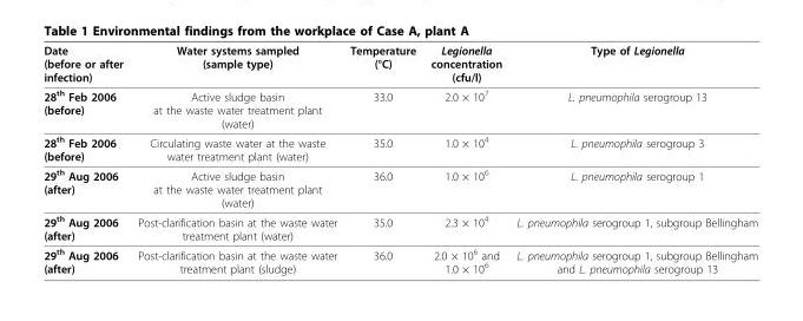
<table><thead><tr><td>Date (before or after infection)</td><td>Water systems sampled (sample type)</td><td>Temperature (°C)</td><td>Legionella concentration (cfu/l)</td><td>Type of Legionella</td></tr></thead><tbody><tr><td>28<sup>th</sup> Feb 2006 (before)</td><td>Active sludge basin at the waste water treatment plant (water)</td><td>33.0</td><td>2.0 × 10<sup>7</sup></td><td>L. pneumophila serogroup 13</td></tr><tr><td>28<sup>th</sup> Feb 2006 (before)</td><td>Circulating waste water at the waste water treatment plant (water)</td><td>35.0</td><td>1.0 × 10<sup>4</sup></td><td>L. pneumophila serogroup 3</td></tr><tr><td>29<sup>th</sup> Aug 2006 (after)</td><td>Active sludge basin at the waste water treatment plant (water)</td><td>36.0</td><td>1.0 × 10<sup>6</sup></td><td>L. pneumophila serogroup 1</td></tr><tr><td>29<sup>th</sup> Aug 2006 (after)</td><td>Post-clarification basin at the waste water treatment plant (water)</td><td>35.0</td><td>2.3 × 10<sup>4</sup></td><td>L. pneumophila serogroup 1, subgroup Bellingham</td></tr><tr><td>29<sup>th</sup> Aug 2006 (after)</td><td>Post-clarification basin at the waste water treatment plant (sludge)</td><td>36.0</td><td>2.0 × 10<sup>6</sup> and 1.0 × 10<sup>6</sup></td><td>L. pneumophila serogroup 1, subgroup Bellingham and L. pneumophila serogroup 13</td></tr></tbody></table>